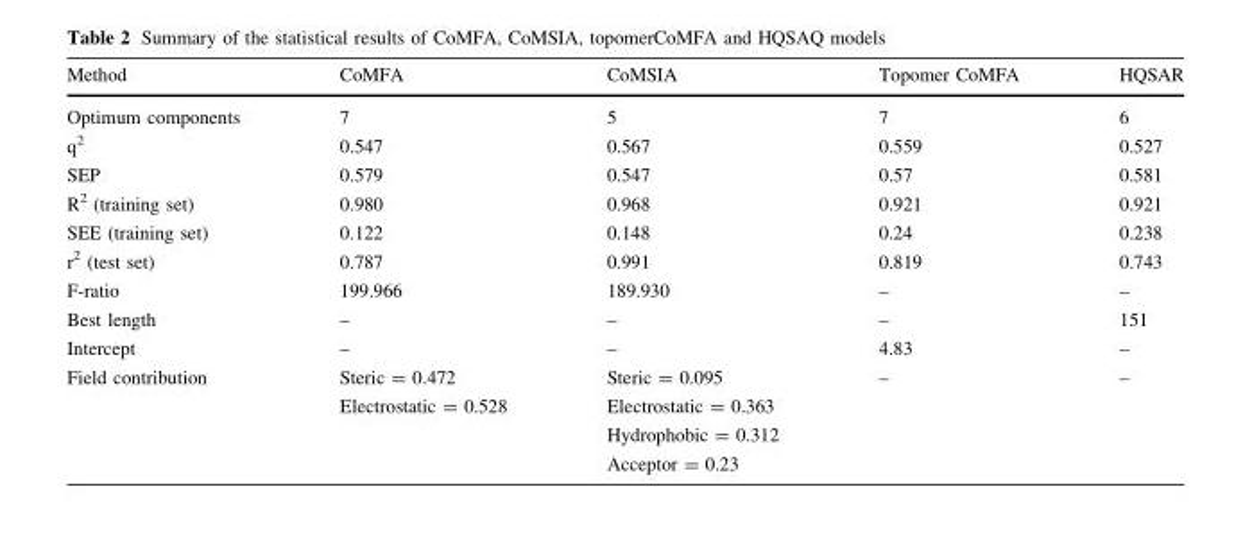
<table><thead><tr><td>Method</td><td>CoMFA</td><td>CoMSIA</td><td>Topomer CoMFA</td><td>HQSAR</td></tr></thead><tbody><tr><td>Optimum components</td><td>7</td><td>5</td><td>7</td><td>6</td></tr><tr><td>q<sup>2</sup></td><td>0.547</td><td>0.567</td><td>0.559</td><td>0.527</td></tr><tr><td>SEP</td><td>0.579</td><td>0.547</td><td>0.57</td><td>0.581</td></tr><tr><td>R<sup>2</sup> (training set)</td><td>0.980</td><td>0.968</td><td>0.921</td><td>0.921</td></tr><tr><td>SEE (training set)</td><td>0.122</td><td>0.148</td><td>0.24</td><td>0.238</td></tr><tr><td>r<sup>2</sup> (test set)</td><td>0.787</td><td>0.991</td><td>0.819</td><td>0.743</td></tr><tr><td>F-ratio</td><td>199.966</td><td>189.930</td><td>–</td><td>–</td></tr><tr><td>Best length</td><td>–</td><td>–</td><td>–</td><td>151</td></tr><tr><td>Intercept</td><td>–</td><td>–</td><td>4.83</td><td>–</td></tr><tr><td>Field contribution</td><td>Steric = 0.472 Electrostatic = 0.528</td><td>Steric = 0.095 Electrostatic = 0.363 Hydrophobic = 0.312 Acceptor = 0.23</td><td>–</td><td>–</td></tr></tbody></table>